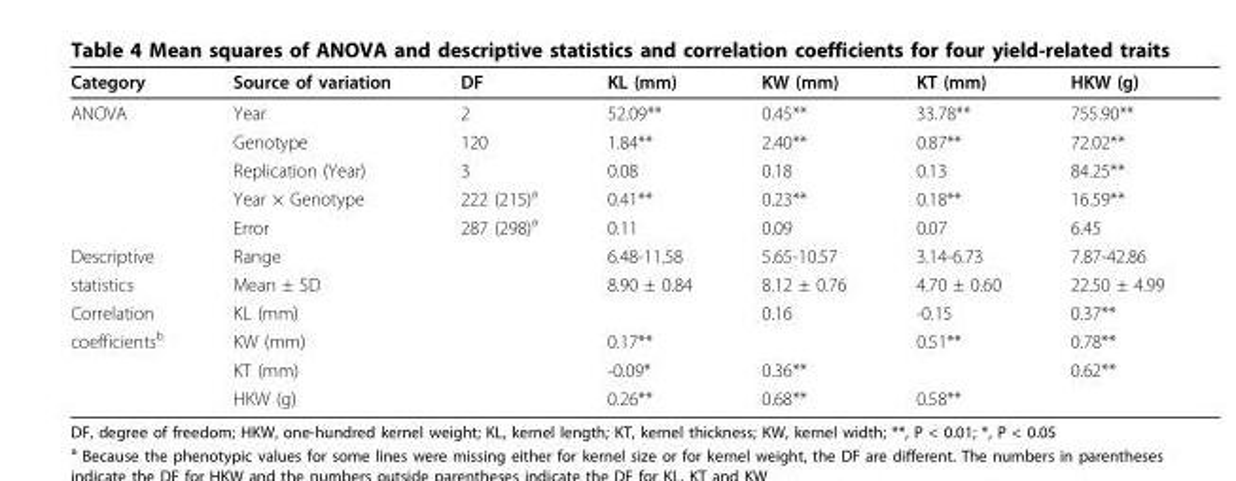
<table><thead><tr><td>Category</td><td>Source of variation</td><td>DF</td><td>KL (mm)</td><td>KW (mm)</td><td>KT (mm)</td><td>HKW (g)</td></tr></thead><tbody><tr><td rowspan="5">ANOVA</td><td>Year</td><td>2</td><td>52.09**</td><td>0.45**</td><td>33.78**</td><td>755.90**</td></tr><tr><td>Genotype</td><td>120</td><td>1.84**</td><td>2.40**</td><td>0.87**</td><td>72.02**</td></tr><tr><td>Replication (Year)</td><td>3</td><td>0.08</td><td>0.18</td><td>0.13</td><td>84.25**</td></tr><tr><td>Year × Genotype</td><td>222 (215)<sup>a</sup></td><td>0.41**</td><td>0.23**</td><td>0.18**</td><td>16.59**</td></tr><tr><td>Error</td><td>287 (298)<sup>a</sup></td><td>0.11</td><td>0.09</td><td>0.07</td><td>6.45</td></tr><tr><td>Descriptive</td><td>Range</td><td></td><td>6.48-11.58</td><td>5.65-10.57</td><td>3.14-6.73</td><td>7.87-42.86</td></tr><tr><td>statistics</td><td>Mean ± SD</td><td></td><td>8.90 ± 0.84</td><td>8.12 ± 0.76</td><td>4.70 ± 0.60</td><td>22.50 ± 4.99</td></tr><tr><td>Correlation</td><td>KL (mm)</td><td></td><td></td><td>0.16</td><td>-0.15</td><td>0.37**</td></tr><tr><td rowspan="3">coefficients<sup>b</sup></td><td>KW (mm)</td><td></td><td>0.17**</td><td></td><td>0.51**</td><td>0.78**</td></tr><tr><td>KT (mm)</td><td></td><td>-0.09*</td><td>0.36**</td><td></td><td>0.62**</td></tr><tr><td>HKW (g)</td><td></td><td>0.26**</td><td>0.68**</td><td>0.58**</td><td></td></tr></tbody></table>